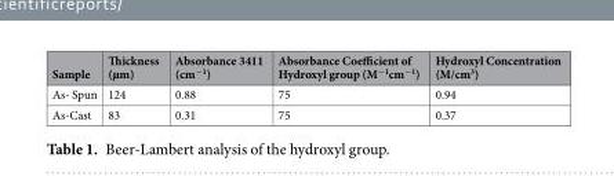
<table><thead><tr><td>Sample</td><td>Thickness (µm)</td><td>Absorbance 3411 (cm<sup>−1</sup>)</td><td>Absorbance Coefficient of Hydroxyl group (M<sup>−1</sup>cm<sup>−1</sup>)</td><td>Hydroxyl Concentration (M/cm<sup>3</sup>)</td></tr></thead><tbody><tr><td>As- Spun</td><td>124</td><td>0.88</td><td>75</td><td>0.94</td></tr><tr><td>As-Cast</td><td>83</td><td>0.31</td><td>75</td><td>0.37</td></tr></tbody></table>